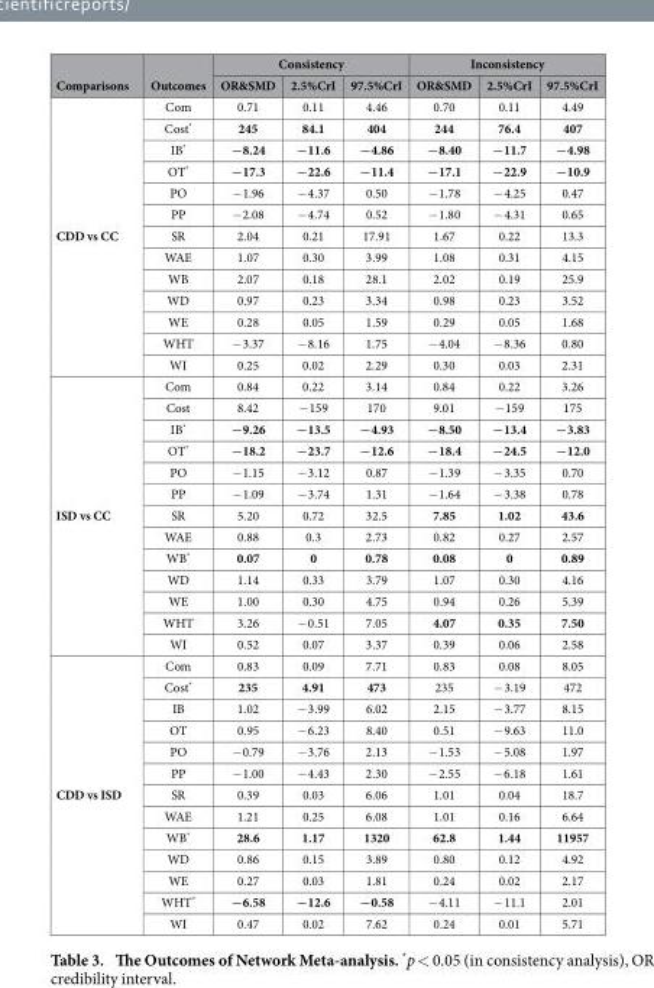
<table><thead><tr><td rowspan="2">Comparisons</td><td rowspan="2">Outcomes</td><td colspan="3">Consistency</td><td colspan="3">Inconsistency</td></tr><tr><td>OR&amp;SMD</td><td>2.5%CrI</td><td>97.5%CrI</td><td>OR&amp;SMD</td><td>2.5%CrI</td><td>97.5%CrI</td></tr></thead><tbody><tr><td rowspan="13">CDD vs CC</td><td>Com</td><td>0.71</td><td>0.11</td><td>4.46</td><td>0.70</td><td>0.11</td><td>4.49</td></tr><tr><td>Cost*</td><td>245</td><td>84.1</td><td>404</td><td>244</td><td>76.4</td><td>407</td></tr><tr><td>IB*</td><td>−8.24</td><td>−11.6</td><td>−4.86</td><td>−8.40</td><td>−11.7</td><td>−4.98</td></tr><tr><td>OT*</td><td>−17.3</td><td>−22.6</td><td>−11.4</td><td>−17.1</td><td>−22.9</td><td>−10.9</td></tr><tr><td>PO</td><td>− 1.96</td><td>− 4.37</td><td>0.50</td><td>− 1.78</td><td>− 4.25</td><td>0.47</td></tr><tr><td>PP</td><td>− 2.08</td><td>− 4.74</td><td>0.52</td><td>− 1.80</td><td>− 4.31</td><td>0.65</td></tr><tr><td>SR</td><td>2.04</td><td>0.21</td><td>17.91</td><td>1.67</td><td>0.22</td><td>13.3</td></tr><tr><td>WAE</td><td>1.07</td><td>0.30</td><td>3.99</td><td>1.08</td><td>0.31</td><td>4.15</td></tr><tr><td>WB</td><td>2.07</td><td>0.18</td><td>28.1</td><td>2.02</td><td>0.19</td><td>25.9</td></tr><tr><td>WD</td><td>0.97</td><td>0.23</td><td>3.34</td><td>0.98</td><td>0.23</td><td>3.52</td></tr><tr><td>WE</td><td>0.28</td><td>0.05</td><td>1.59</td><td>0.29</td><td>0.05</td><td>1.68</td></tr><tr><td>WHT</td><td>− 3.37</td><td>− 8.16</td><td>1.75</td><td>− 4.04</td><td>− 8.36</td><td>0.80</td></tr><tr><td>WI</td><td>0.25</td><td>0.02</td><td>2.29</td><td>0.30</td><td>0.03</td><td>2.31</td></tr><tr><td rowspan="13">ISD vs CC</td><td>Com</td><td>0.84</td><td>0.22</td><td>3.14</td><td>0.84</td><td>0.22</td><td>3.26</td></tr><tr><td>Cost</td><td>8.42</td><td>− 159</td><td>170</td><td>9.01</td><td>− 159</td><td>175</td></tr><tr><td>IB*</td><td>−9.26</td><td>−13.5</td><td>−4.93</td><td>−8.50</td><td>−13.4</td><td>−3.83</td></tr><tr><td>OT*</td><td>−18.2</td><td>−23.7</td><td>−12.6</td><td>−18.4</td><td>−24.5</td><td>−12.0</td></tr><tr><td>PO</td><td>− 1.15</td><td>− 3.12</td><td>0.87</td><td>− 1.39</td><td>− 3.35</td><td>0.70</td></tr><tr><td>PP</td><td>− 1.09</td><td>− 3.74</td><td>1.31</td><td>− 1.64</td><td>− 3.38</td><td>0.78</td></tr><tr><td>SR</td><td>5.20</td><td>0.72</td><td>32.5</td><td>7.85</td><td>1.02</td><td>43.6</td></tr><tr><td>WAE</td><td>0.88</td><td>0.3</td><td>2.73</td><td>0.82</td><td>0.27</td><td>2.57</td></tr><tr><td>WB*</td><td>0.07</td><td>0</td><td>0.78</td><td>0.08</td><td>0</td><td>0.89</td></tr><tr><td>WD</td><td>1.14</td><td>0.33</td><td>3.79</td><td>1.07</td><td>0.30</td><td>4.16</td></tr><tr><td>WE</td><td>1.00</td><td>0.30</td><td>4.75</td><td>0.94</td><td>0.26</td><td>5.39</td></tr><tr><td>WHT</td><td>3.26</td><td>− 0.51</td><td>7.05</td><td>4.07</td><td>0.35</td><td>7.50</td></tr><tr><td>WI</td><td>0.52</td><td>0.07</td><td>3.37</td><td>0.39</td><td>0.06</td><td>2.58</td></tr><tr><td rowspan="13">CDD vs ISD</td><td>Com</td><td>0.83</td><td>0.09</td><td>7.71</td><td>0.83</td><td>0.08</td><td>8.05</td></tr><tr><td>Cost*</td><td>235</td><td>4.91</td><td>473</td><td>235</td><td>− 3.19</td><td>472</td></tr><tr><td>IB</td><td>1.02</td><td>− 3.99</td><td>6.02</td><td>2.15</td><td>− 3.77</td><td>8.15</td></tr><tr><td>OT</td><td>0.95</td><td>− 6.23</td><td>8.40</td><td>0.51</td><td>− 9.63</td><td>11.0</td></tr><tr><td>PO</td><td>− 0.79</td><td>− 3.76</td><td>2.13</td><td>− 1.53</td><td>− 5.08</td><td>1.97</td></tr><tr><td>PP</td><td>− 1.00</td><td>− 4.43</td><td>2.30</td><td>− 2.55</td><td>− 6.18</td><td>1.61</td></tr><tr><td>SR</td><td>0.39</td><td>0.03</td><td>6.06</td><td>1.01</td><td>0.04</td><td>18.7</td></tr><tr><td>WAE</td><td>1.21</td><td>0.25</td><td>6.08</td><td>1.01</td><td>0.16</td><td>6.64</td></tr><tr><td>WB*</td><td>28.6</td><td>1.17</td><td>1320</td><td>62.8</td><td>1.44</td><td>11957</td></tr><tr><td>WD</td><td>0.86</td><td>0.15</td><td>3.89</td><td>0.80</td><td>0.12</td><td>4.92</td></tr><tr><td>WE</td><td>0.27</td><td>0.03</td><td>1.81</td><td>0.24</td><td>0.02</td><td>2.17</td></tr><tr><td>WHT*</td><td>−6.58</td><td>−12.6</td><td>−0.58</td><td>− 4.11</td><td>− 11.1</td><td>2.01</td></tr><tr><td>WI</td><td>0.47</td><td>0.02</td><td>7.62</td><td>0.24</td><td>0.01</td><td>5.71</td></tr></tbody></table>